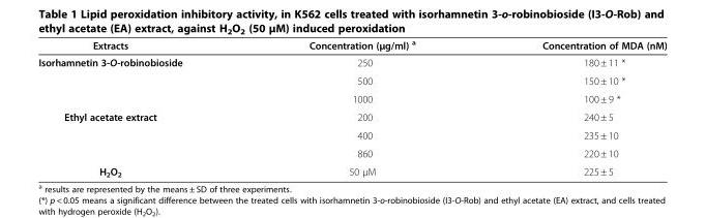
<table><thead><tr><td>Extracts</td><td>Concentration (μg/ml) <sup>a</sup></td><td>Concentration of MDA (nM)</td></tr></thead><tbody><tr><td rowspan="3">Isorhamnetin 3-O-robinobioside</td><td>250</td><td>180 ± 11 *</td></tr><tr><td>500</td><td>150 ± 10 *</td></tr><tr><td>1000</td><td>100 ± 9 *</td></tr><tr><td rowspan="3">Ethyl acetate extract</td><td>200</td><td>240 ± 5</td></tr><tr><td>400</td><td>235 ± 10</td></tr><tr><td>860</td><td>220 ± 10</td></tr><tr><td>H<sub>2</sub>O<sub>2</sub></td><td>50 μM</td><td>225 ± 5</td></tr></tbody></table>